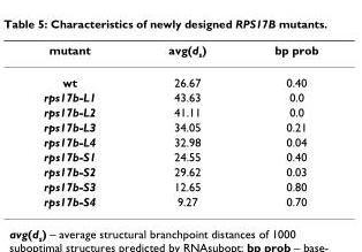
<table><thead><tr><td>mutant</td><td>avg(d<sub>s</sub>)</td><td>bp prob</td></tr></thead><tbody><tr><td>wt</td><td>26.67</td><td>0.40</td></tr><tr><td>rps17b-L1</td><td>43.63</td><td>0.0</td></tr><tr><td>rps17b-L2</td><td>41.11</td><td>0.0</td></tr><tr><td>rps17b-L3</td><td>34.05</td><td>0.21</td></tr><tr><td>rps17b-L4</td><td>32.98</td><td>0.04</td></tr><tr><td>rps17b-S1</td><td>24.55</td><td>0.40</td></tr><tr><td>rps17b-S2</td><td>29.62</td><td>0.03</td></tr><tr><td>rps17b-S3</td><td>12.65</td><td>0.80</td></tr><tr><td>rps17b-S4</td><td>9.27</td><td>0.70</td></tr></tbody></table>